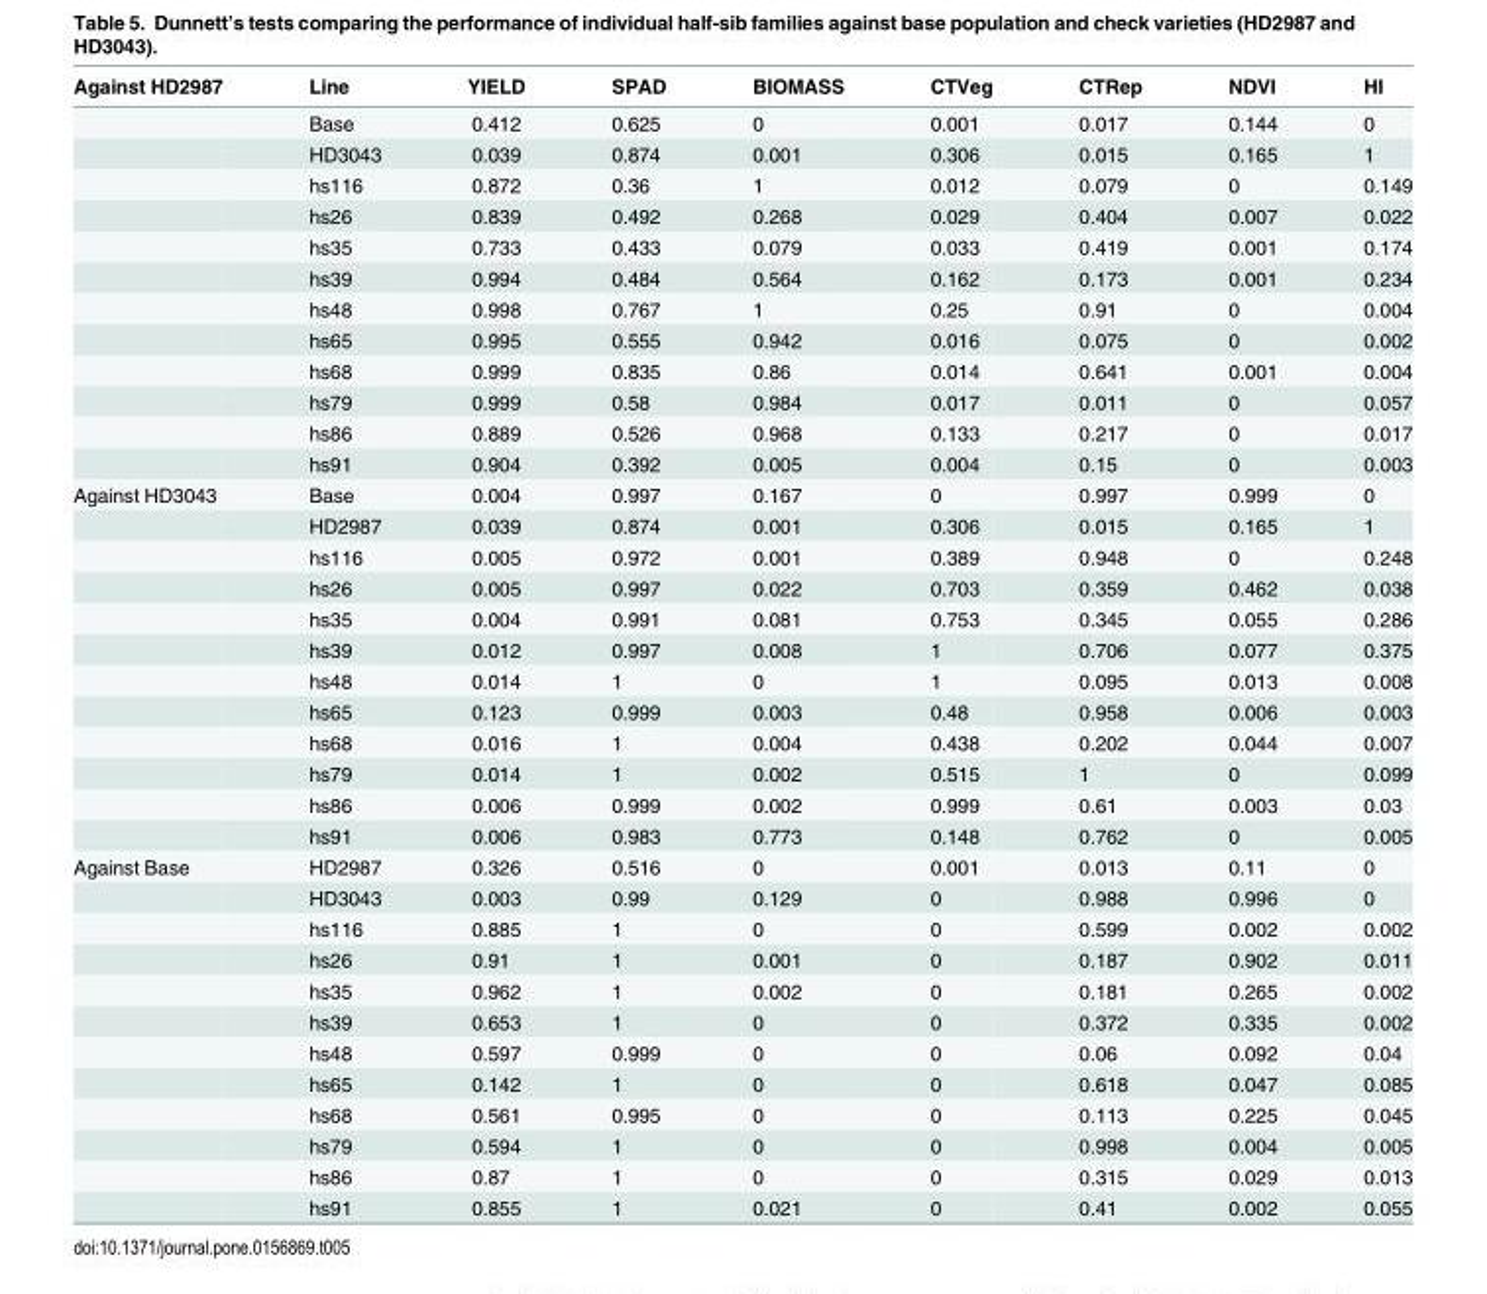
<table><thead><tr><td>Against HD2987</td><td>Line</td><td>YIELD</td><td>SPAD</td><td>BIOMASS</td><td>CTVeg</td><td>CTRep</td><td>NDVI</td><td>HI</td></tr></thead><tbody><tr><td></td><td>Base</td><td>0.412</td><td>0.625</td><td>0</td><td>0.001</td><td>0.017</td><td>0.144</td><td>0</td></tr><tr><td></td><td>HD3043</td><td>0.039</td><td>0.874</td><td>0.001</td><td>0.306</td><td>0.015</td><td>0.165</td><td>1</td></tr><tr><td></td><td>hs116</td><td>0.872</td><td>0.36</td><td>1</td><td>0.012</td><td>0.079</td><td>0</td><td>0.149</td></tr><tr><td></td><td>hs26</td><td>0.839</td><td>0.492</td><td>0.268</td><td>0.029</td><td>0.404</td><td>0.007</td><td>0.022</td></tr><tr><td></td><td>hs35</td><td>0.733</td><td>0.433</td><td>0.079</td><td>0.033</td><td>0.419</td><td>0.001</td><td>0.174</td></tr><tr><td></td><td>hs39</td><td>0.994</td><td>0.484</td><td>0.564</td><td>0.162</td><td>0.173</td><td>0.001</td><td>0.234</td></tr><tr><td></td><td>hs48</td><td>0.998</td><td>0.767</td><td>1</td><td>0.25</td><td>0.91</td><td>0</td><td>0.004</td></tr><tr><td></td><td>hs65</td><td>0.995</td><td>0.555</td><td>0.942</td><td>0.016</td><td>0.075</td><td>0</td><td>0.002</td></tr><tr><td></td><td>hs68</td><td>0.999</td><td>0.835</td><td>0.86</td><td>0.014</td><td>0.641</td><td>0.001</td><td>0.004</td></tr><tr><td></td><td>hs79</td><td>0.999</td><td>0.58</td><td>0.984</td><td>0.017</td><td>0.011</td><td>0</td><td>0.057</td></tr><tr><td></td><td>hs86</td><td>0.889</td><td>0.526</td><td>0.968</td><td>0.133</td><td>0.217</td><td>0</td><td>0.017</td></tr><tr><td></td><td>hs91</td><td>0.904</td><td>0.392</td><td>0.005</td><td>0.004</td><td>0.15</td><td>0</td><td>0.003</td></tr><tr><td rowspan="12">Against HD3043</td><td>Base</td><td>0.004</td><td>0.997</td><td>0.167</td><td>0</td><td>0.997</td><td>0.999</td><td>0</td></tr><tr><td>HD2987</td><td>0.039</td><td>0.874</td><td>0.001</td><td>0.306</td><td>0.015</td><td>0.165</td><td>1</td></tr><tr><td>hs116</td><td>0.005</td><td>0.972</td><td>0.001</td><td>0.389</td><td>0.948</td><td>0</td><td>0.248</td></tr><tr><td>hs26</td><td>0.005</td><td>0.997</td><td>0.022</td><td>0.703</td><td>0.359</td><td>0.462</td><td>0.038</td></tr><tr><td>hs35</td><td>0.004</td><td>0.991</td><td>0.081</td><td>0.753</td><td>0.345</td><td>0.055</td><td>0.286</td></tr><tr><td>hs39</td><td>0.012</td><td>0.997</td><td>0.008</td><td>1</td><td>0.706</td><td>0.077</td><td>0.375</td></tr><tr><td>hs48</td><td>0.014</td><td>1</td><td>0</td><td>1</td><td>0.095</td><td>0.013</td><td>0.008</td></tr><tr><td>hs65</td><td>0.123</td><td>0.999</td><td>0.003</td><td>0.48</td><td>0.958</td><td>0.006</td><td>0.003</td></tr><tr><td>hs68</td><td>0.016</td><td>1</td><td>0.004</td><td>0.438</td><td>0.202</td><td>0.044</td><td>0.007</td></tr><tr><td>hs79</td><td>0.014</td><td>1</td><td>0.002</td><td>0.515</td><td>1</td><td>0</td><td>0.099</td></tr><tr><td>hs86</td><td>0.006</td><td>0.999</td><td>0.002</td><td>0.999</td><td>0.61</td><td>0.003</td><td>0.03</td></tr><tr><td>hs91</td><td>0.006</td><td>0.983</td><td>0.773</td><td>0.148</td><td>0.762</td><td>0</td><td>0.005</td></tr><tr><td rowspan="12">Against Base</td><td>HD2987</td><td>0.326</td><td>0.516</td><td>0</td><td>0.001</td><td>0.013</td><td>0.11</td><td>0</td></tr><tr><td>HD3043</td><td>0.003</td><td>0.99</td><td>0.129</td><td>0</td><td>0.988</td><td>0.996</td><td>0</td></tr><tr><td>hs116</td><td>0.885</td><td>1</td><td>0</td><td>0</td><td>0.599</td><td>0.002</td><td>0.002</td></tr><tr><td>hs26</td><td>0.91</td><td>1</td><td>0.001</td><td>0</td><td>0.187</td><td>0.902</td><td>0.011</td></tr><tr><td>hs35</td><td>0.962</td><td>1</td><td>0.002</td><td>0</td><td>0.181</td><td>0.265</td><td>0.002</td></tr><tr><td>hs39</td><td>0.653</td><td>1</td><td>0</td><td>0</td><td>0.372</td><td>0.335</td><td>0.002</td></tr><tr><td>hs48</td><td>0.597</td><td>0.999</td><td>0</td><td>0</td><td>0.06</td><td>0.092</td><td>0.04</td></tr><tr><td>hs65</td><td>0.142</td><td>1</td><td>0</td><td>0</td><td>0.618</td><td>0.047</td><td>0.085</td></tr><tr><td>hs68</td><td>0.561</td><td>0.995</td><td>0</td><td>0</td><td>0.113</td><td>0.225</td><td>0.045</td></tr><tr><td>hs79</td><td>0.594</td><td>1</td><td>0</td><td>0</td><td>0.998</td><td>0.004</td><td>0.005</td></tr><tr><td>hs86</td><td>0.87</td><td>1</td><td>0</td><td>0</td><td>0.315</td><td>0.029</td><td>0.013</td></tr><tr><td>hs91</td><td>0.855</td><td>1</td><td>0.021</td><td>0</td><td>0.41</td><td>0.002</td><td>0.055</td></tr></tbody></table>